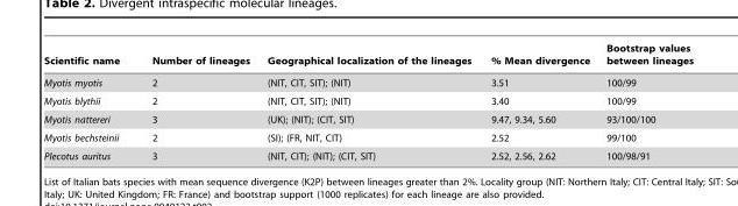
<table><thead><tr><td>Scientific name</td><td>Number of lineages</td><td>Geographical localization of the lineages</td><td>% Mean divergence</td><td>Bootstrap values between lineages</td></tr></thead><tbody><tr><td>Myotis myotis</td><td>2</td><td>(NIT, CIT, SIT); (NIT)</td><td>3.51</td><td>100/99</td></tr><tr><td>Myotis blythii</td><td>2</td><td>(NIT, CIT, SIT); (NIT)</td><td>3.40</td><td>100/99</td></tr><tr><td>Myotis nattereri</td><td>3</td><td>(UK); (NIT); (CIT, SIT)</td><td>9.47, 9.34, 5.60</td><td>93/100/100</td></tr><tr><td>Myotis bechsteinii</td><td>2</td><td>(SI); (FR, NIT, CIT)</td><td>2.52</td><td>99/100</td></tr><tr><td>Plecotus auritus</td><td>3</td><td>(NIT, CIT); (NIT); (CIT, SIT)</td><td>2.52, 2.56, 2.62</td><td>100/98/91</td></tr></tbody></table>